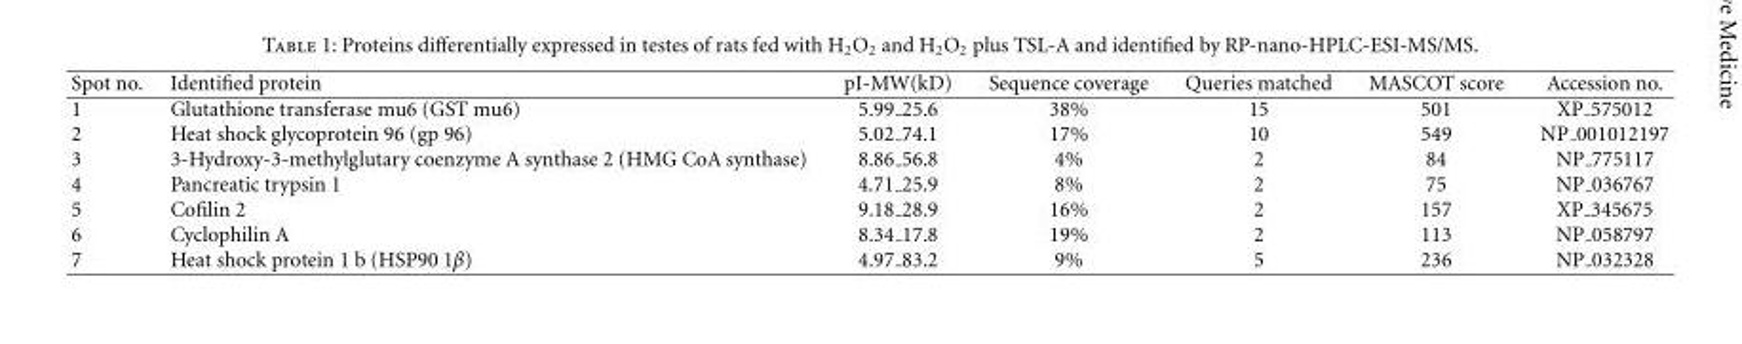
<table><thead><tr><td>Spot no.</td><td>Identified protein</td><td>pI-MW(kD)</td><td>Sequence coverage</td><td>Queries matched</td><td>MASCOT score</td><td>Accession no.</td></tr></thead><tbody><tr><td>1</td><td>Glutathione transferase mu6 (GST mu6)</td><td>5.99 25.6</td><td>38%</td><td>15</td><td>501</td><td>XP 575012</td></tr><tr><td>2</td><td>Heat shock glycoprotein 96 (gp 96)</td><td>5.02 74.1</td><td>17%</td><td>10</td><td>549</td><td>NP 001012197</td></tr><tr><td>3</td><td>3-Hydroxy-3-methylglutary coenzyme A synthase 2 (HMG CoA synthase)</td><td>8.86 56.8</td><td>4%</td><td>2</td><td>84</td><td>NP 775117</td></tr><tr><td>4</td><td>Pancreatic trypsin 1</td><td>4.71 25.9</td><td>8%</td><td>2</td><td>75</td><td>NP 036767</td></tr><tr><td>5</td><td>Cofilin 2</td><td>9.18 28.9</td><td>16%</td><td>2</td><td>157</td><td>XP 345675</td></tr><tr><td>6</td><td>Cyclophilin A</td><td>8.34 17.8</td><td>19%</td><td>2</td><td>113</td><td>NP 058797</td></tr><tr><td>7</td><td>Heat shock protein 1 b (HSP90 1β)</td><td>4.97 83.2</td><td>9%</td><td>5</td><td>236</td><td>NP 032328</td></tr></tbody></table>